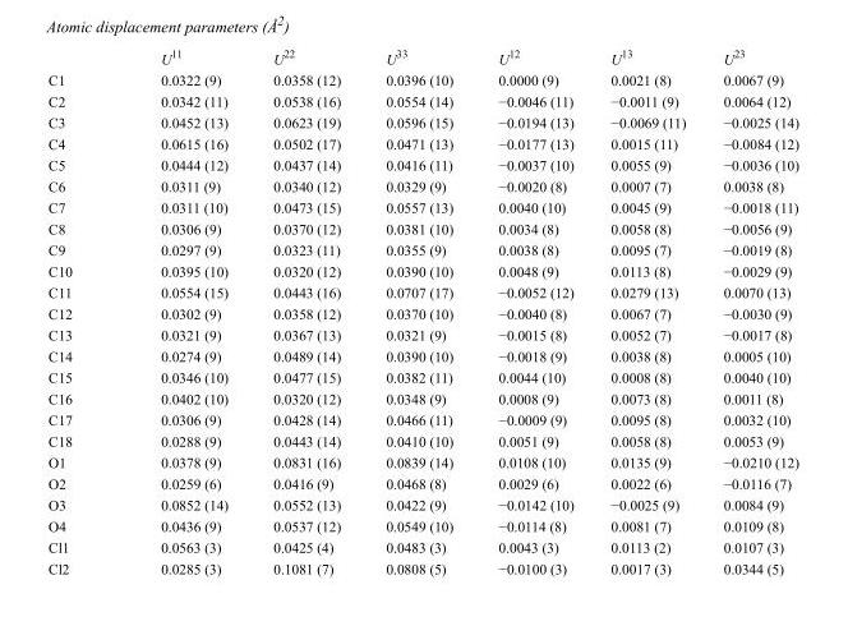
<table><thead><tr><td></td><td>U<sup>11</sup></td><td>U<sup>22</sup></td><td>U<sup>33</sup></td><td>U<sup>12</sup></td><td>U<sup>13</sup></td><td>U<sup>23</sup></td></tr></thead><tbody><tr><td>C1</td><td>0.0322 (9)</td><td>0.0358 (12)</td><td>0.0396 (10)</td><td>0.0000 (9)</td><td>0.0021 (8)</td><td>0.0067 (9)</td></tr><tr><td>C2</td><td>0.0342 (11)</td><td>0.0538 (16)</td><td>0.0554 (14)</td><td>−0.0046 (11)</td><td>−0.0011 (9)</td><td>0.0064 (12)</td></tr><tr><td>C3</td><td>0.0452 (13)</td><td>0.0623 (19)</td><td>0.0596 (15)</td><td>−0.0194 (13)</td><td>−0.0069 (11)</td><td>−0.0025 (14)</td></tr><tr><td>C4</td><td>0.0615 (16)</td><td>0.0502 (17)</td><td>0.0471 (13)</td><td>−0.0177 (13)</td><td>0.0015 (11)</td><td>−0.0084 (12)</td></tr><tr><td>C5</td><td>0.0444 (12)</td><td>0.0437 (14)</td><td>0.0416 (11)</td><td>−0.0037 (10)</td><td>0.0055 (9)</td><td>−0.0036 (10)</td></tr><tr><td>C6</td><td>0.0311 (9)</td><td>0.0340 (12)</td><td>0.0329 (9)</td><td>−0.0020 (8)</td><td>0.0007 (7)</td><td>0.0038 (8)</td></tr><tr><td>C7</td><td>0.0311 (10)</td><td>0.0473 (15)</td><td>0.0557 (13)</td><td>0.0040 (10)</td><td>0.0045 (9)</td><td>−0.0018 (11)</td></tr><tr><td>C8</td><td>0.0306 (9)</td><td>0.0370 (12)</td><td>0.0381 (10)</td><td>0.0034 (8)</td><td>0.0058 (8)</td><td>−0.0056 (9)</td></tr><tr><td>C9</td><td>0.0297 (9)</td><td>0.0323 (11)</td><td>0.0355 (9)</td><td>0.0038 (8)</td><td>0.0095 (7)</td><td>−0.0019 (8)</td></tr><tr><td>C10</td><td>0.0395 (10)</td><td>0.0320 (12)</td><td>0.0390 (10)</td><td>0.0048 (9)</td><td>0.0113 (8)</td><td>−0.0029 (9)</td></tr><tr><td>C11</td><td>0.0554 (15)</td><td>0.0443 (16)</td><td>0.0707 (17)</td><td>−0.0052 (12)</td><td>0.0279 (13)</td><td>0.0070 (13)</td></tr><tr><td>C12</td><td>0.0302 (9)</td><td>0.0358 (12)</td><td>0.0370 (10)</td><td>−0.0040 (8)</td><td>0.0067 (7)</td><td>−0.0030 (9)</td></tr><tr><td>C13</td><td>0.0321 (9)</td><td>0.0367 (13)</td><td>0.0321 (9)</td><td>−0.0015 (8)</td><td>0.0052 (7)</td><td>−0.0017 (8)</td></tr><tr><td>C14</td><td>0.0274 (9)</td><td>0.0489 (14)</td><td>0.0390 (10)</td><td>−0.0018 (9)</td><td>0.0038 (8)</td><td>0.0005 (10)</td></tr><tr><td>C15</td><td>0.0346 (10)</td><td>0.0477 (15)</td><td>0.0382 (11)</td><td>0.0044 (10)</td><td>0.0008 (8)</td><td>0.0040 (10)</td></tr><tr><td>C16</td><td>0.0402 (10)</td><td>0.0320 (12)</td><td>0.0348 (9)</td><td>0.0008 (9)</td><td>0.0073 (8)</td><td>0.0011 (8)</td></tr><tr><td>C17</td><td>0.0306 (9)</td><td>0.0428 (14)</td><td>0.0466 (11)</td><td>−0.0009 (9)</td><td>0.0095 (8)</td><td>0.0032 (10)</td></tr><tr><td>C18</td><td>0.0288 (9)</td><td>0.0443 (14)</td><td>0.0410 (10)</td><td>0.0051 (9)</td><td>0.0058 (8)</td><td>0.0053 (9)</td></tr><tr><td>O1</td><td>0.0378 (9)</td><td>0.0831 (16)</td><td>0.0839 (14)</td><td>0.0108 (10)</td><td>0.0135 (9)</td><td>−0.0210 (12)</td></tr><tr><td>O2</td><td>0.0259 (6)</td><td>0.0416 (9)</td><td>0.0468 (8)</td><td>0.0029 (6)</td><td>0.0022 (6)</td><td>−0.0116 (7)</td></tr><tr><td>O3</td><td>0.0852 (14)</td><td>0.0552 (13)</td><td>0.0422 (9)</td><td>−0.0142 (10)</td><td>−0.0025 (9)</td><td>0.0084 (9)</td></tr><tr><td>O4</td><td>0.0436 (9)</td><td>0.0537 (12)</td><td>0.0549 (10)</td><td>−0.0114 (8)</td><td>0.0081 (7)</td><td>0.0109 (8)</td></tr><tr><td>Cl1</td><td>0.0563 (3)</td><td>0.0425 (4)</td><td>0.0483 (3)</td><td>0.0043 (3)</td><td>0.0113 (2)</td><td>0.0107 (3)</td></tr><tr><td>Cl2</td><td>0.0285 (3)</td><td>0.1081 (7)</td><td>0.0808 (5)</td><td>−0.0100 (3)</td><td>0.0017 (3)</td><td>0.0344 (5)</td></tr></tbody></table>